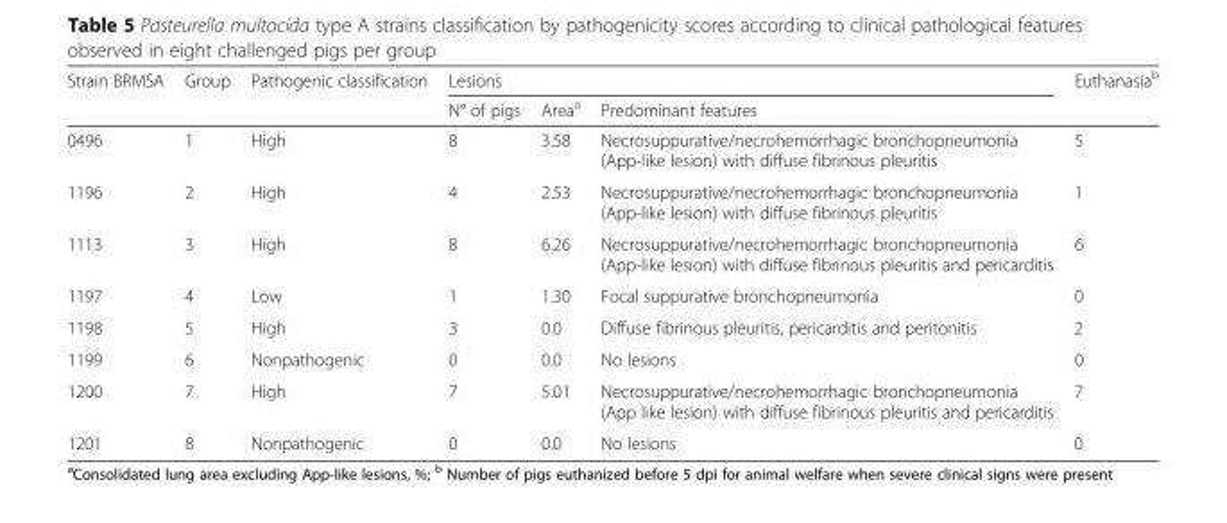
<table><thead><tr><td rowspan="2">Strain BRMSA</td><td rowspan="2">Group</td><td rowspan="2">Pathogenic classification</td><td colspan="3">Lesions</td><td rowspan="2">Euthanasia<sup>b</sup></td></tr><tr><td>N° of pigs</td><td>Area<sup>a</sup></td><td>Predominant features</td></tr></thead><tbody><tr><td>0496</td><td>1</td><td>High</td><td>8</td><td>3.58</td><td>Necrosuppurative/necrohemorrhagic bronchopneumonia (App-like lesion) with diffuse fibrinous pleuritis</td><td>5</td></tr><tr><td>1196</td><td>2</td><td>High</td><td>4</td><td>2.53</td><td>Necrosuppurative/necrohemorrhagic bronchopneumonia (App-like lesion) with diffuse fibrinous pleuritis</td><td>1</td></tr><tr><td>1113</td><td>3</td><td>High</td><td>8</td><td>6.26</td><td>Necrosuppurative/necrohemorrhagic bronchopneumonia (App-like lesion) with diffuse fibrinous pleuritis and pericarditis</td><td>6</td></tr><tr><td>1197</td><td>4</td><td>Low</td><td>1</td><td>1.30</td><td>Focal suppurative bronchopneumonia</td><td>0</td></tr><tr><td>1198</td><td>5</td><td>High</td><td>3</td><td>0.0</td><td>Diffuse fibrinous pleuritis, pericarditis and peritonitis</td><td>2</td></tr><tr><td>1199</td><td>6</td><td>Nonpathogenic</td><td>0</td><td>0.0</td><td>No lesions</td><td>0</td></tr><tr><td>1200</td><td>7</td><td>High</td><td>7</td><td>5.01</td><td>Necrosuppurative/necrohemorrhagic bronchopneumonia (App like lesion) with diffuse fibrinous pleuritis and pericarditis</td><td>7</td></tr><tr><td>1201</td><td>8</td><td>Nonpathogenic</td><td>0</td><td>0.0</td><td>No lesions</td><td>0</td></tr></tbody></table>